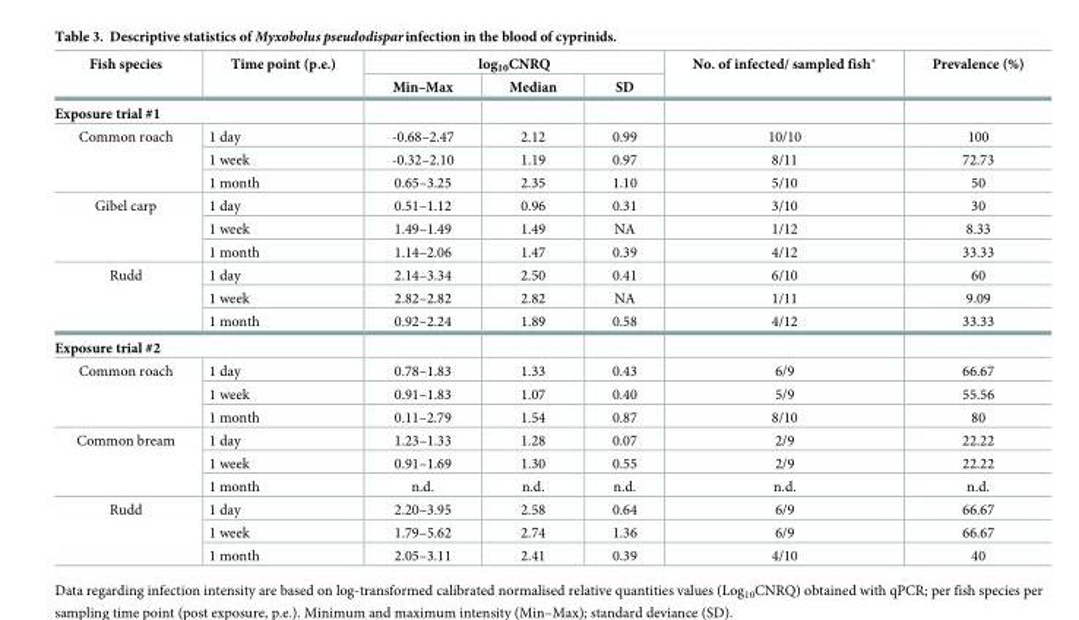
<table><thead><tr><td rowspan="2">Fish species</td><td rowspan="2">Time point (p.e.)</td><td colspan="3">log<sub>10</sub>CNRQ</td><td rowspan="2">No. of infected/ sampled fish*</td><td rowspan="2">Prevalence (%)</td></tr><tr><td>Min–Max</td><td>Median</td><td>SD</td></tr></thead><tbody><tr><td colspan="7">Exposure trial #1</td></tr><tr><td rowspan="3">Common roach</td><td>1 day</td><td>-0.68–2.47</td><td>2.12</td><td>0.99</td><td>10/10</td><td>100</td></tr><tr><td>1 week</td><td>-0.32–2.10</td><td>1.19</td><td>0.97</td><td>8/11</td><td>72.73</td></tr><tr><td>1 month</td><td>0.65–3.25</td><td>2.35</td><td>1.10</td><td>5/10</td><td>50</td></tr><tr><td rowspan="3">Gibel carp</td><td>1 day</td><td>0.51–1.12</td><td>0.96</td><td>0.31</td><td>3/10</td><td>30</td></tr><tr><td>1 week</td><td>1.49–1.49</td><td>1.49</td><td>NA</td><td>1/12</td><td>8.33</td></tr><tr><td>1 month</td><td>1.14–2.06</td><td>1.47</td><td>0.39</td><td>4/12</td><td>33.33</td></tr><tr><td rowspan="3">Rudd</td><td>1 day</td><td>2.14–3.34</td><td>2.50</td><td>0.41</td><td>6/10</td><td>60</td></tr><tr><td>1 week</td><td>2.82–2.82</td><td>2.82</td><td>NA</td><td>1/11</td><td>9.09</td></tr><tr><td>1 month</td><td>0.92–2.24</td><td>1.89</td><td>0.58</td><td>4/12</td><td>33.33</td></tr><tr><td colspan="7">Exposure trial #2</td></tr><tr><td rowspan="3">Common roach</td><td>1 day</td><td>0.78–1.83</td><td>1.33</td><td>0.43</td><td>6/9</td><td>66.67</td></tr><tr><td>1 week</td><td>0.91–1.83</td><td>1.07</td><td>0.40</td><td>5/9</td><td>55.56</td></tr><tr><td>1 month</td><td>0.11–2.79</td><td>1.54</td><td>0.87</td><td>8/10</td><td>80</td></tr><tr><td rowspan="3">Common bream</td><td>1 day</td><td>1.23–1.33</td><td>1.28</td><td>0.07</td><td>2/9</td><td>22.22</td></tr><tr><td>1 week</td><td>0.91–1.69</td><td>1.30</td><td>0.55</td><td>2/9</td><td>22.22</td></tr><tr><td>1 month</td><td>n.d.</td><td>n.d.</td><td>n.d.</td><td>n.d.</td><td>n.d.</td></tr><tr><td rowspan="3">Rudd</td><td>1 day</td><td>2.20–3.95</td><td>2.58</td><td>0.64</td><td>6/9</td><td>66.67</td></tr><tr><td>1 week</td><td>1.79–5.62</td><td>2.74</td><td>1.36</td><td>6/9</td><td>66.67</td></tr><tr><td>1 month</td><td>2.05–3.11</td><td>2.41</td><td>0.39</td><td>4/10</td><td>40</td></tr></tbody></table>